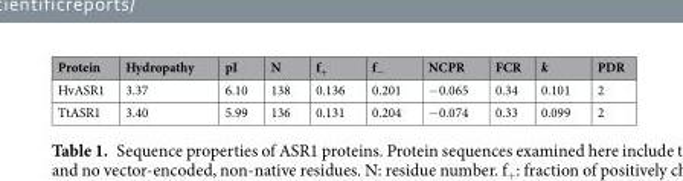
<table><thead><tr><td>Protein</td><td>Hydropathy</td><td>pI</td><td>N</td><td>f<sub>+</sub></td><td>f<sub>−</sub></td><td>NCPR</td><td>FCR</td><td>k</td><td>PDR</td></tr></thead><tbody><tr><td>HvASR1</td><td>3.37</td><td>6.10</td><td>138</td><td>0.136</td><td>0.201</td><td>−0.065</td><td>0.34</td><td>0.101</td><td>2</td></tr><tr><td>TtASR1</td><td>3.40</td><td>5.99</td><td>136</td><td>0.131</td><td>0.204</td><td>−0.074</td><td>0.33</td><td>0.099</td><td>2</td></tr></tbody></table>